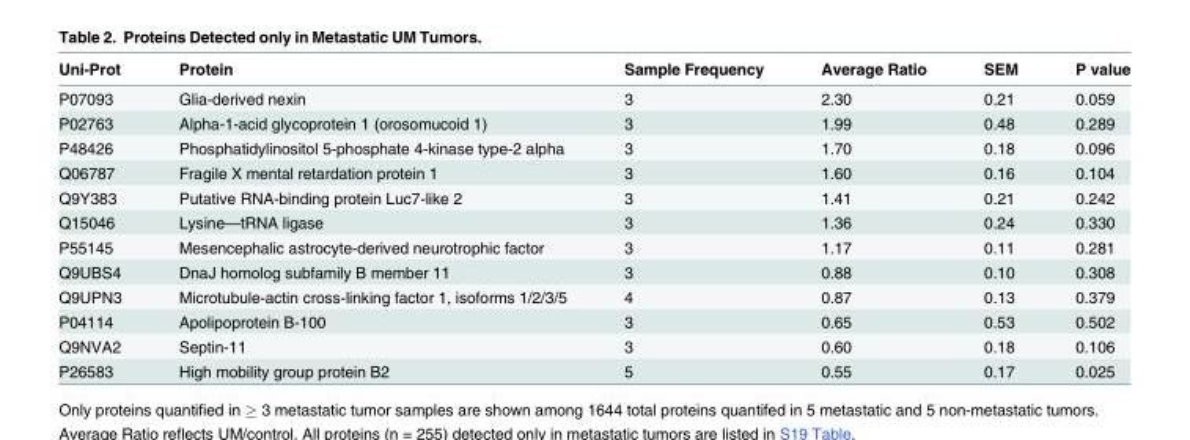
<table><thead><tr><td>Uni-Prot</td><td>Protein</td><td>Sample Frequency</td><td>Average Ratio</td><td>SEM</td><td>P value</td></tr></thead><tbody><tr><td>P07093</td><td>Glia-derived nexin</td><td>3</td><td>2.30</td><td>0.21</td><td>0.059</td></tr><tr><td>P02763</td><td>Alpha-1-acid glycoprotein 1 (orosomucoid 1)</td><td>3</td><td>1.99</td><td>0.48</td><td>0.289</td></tr><tr><td>P48426</td><td>Phosphatidylinositol 5-phosphate 4-kinase type-2 alpha</td><td>3</td><td>1.70</td><td>0.18</td><td>0.096</td></tr><tr><td>Q06787</td><td>Fragile X mental retardation protein 1</td><td>3</td><td>1.60</td><td>0.16</td><td>0.104</td></tr><tr><td>Q9Y383</td><td>Putative RNA-binding protein Luc7-like 2</td><td>3</td><td>1.41</td><td>0.21</td><td>0.242</td></tr><tr><td>Q15046</td><td>Lysine—tRNA ligase</td><td>3</td><td>1.36</td><td>0.24</td><td>0.330</td></tr><tr><td>P55145</td><td>Mesencephalic astrocyte-derived neurotrophic factor</td><td>3</td><td>1.17</td><td>0.11</td><td>0.281</td></tr><tr><td>Q9UBS4</td><td>DnaJ homolog subfamily B member 11</td><td>3</td><td>0.88</td><td>0.10</td><td>0.308</td></tr><tr><td>Q9UPN3</td><td>Microtubule-actin cross-linking factor 1, isoforms 1/2/3/5</td><td>4</td><td>0.87</td><td>0.13</td><td>0.379</td></tr><tr><td>P04114</td><td>Apolipoprotein B-100</td><td>3</td><td>0.65</td><td>0.53</td><td>0.502</td></tr><tr><td>Q9NVA2</td><td>Septin-11</td><td>3</td><td>0.60</td><td>0.18</td><td>0.106</td></tr><tr><td>P26583</td><td>High mobility group protein B2</td><td>5</td><td>0.55</td><td>0.17</td><td>0.025</td></tr></tbody></table>